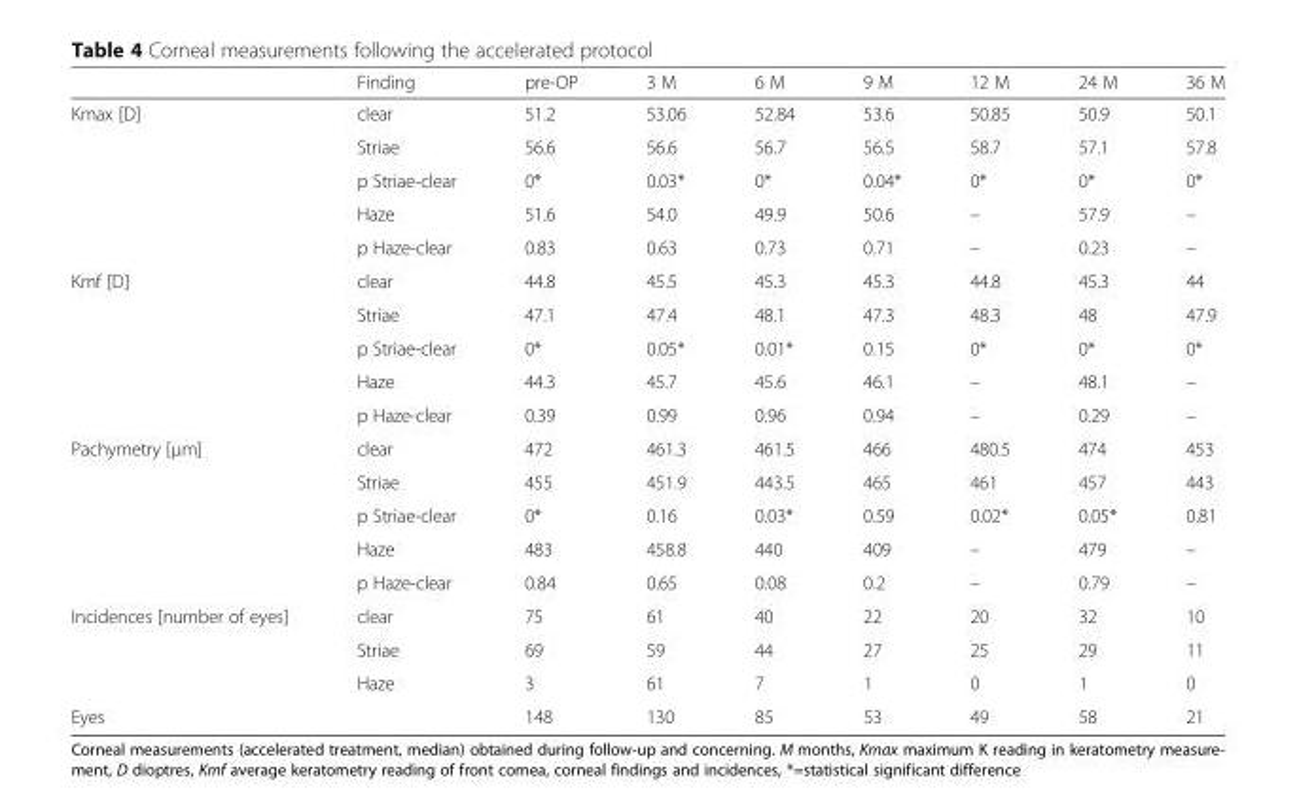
<table><thead><tr><td></td><td>Finding</td><td>pre-OP</td><td>3 M</td><td>6 M</td><td>9 M</td><td>12 M</td><td>24 M</td><td>36 M</td></tr></thead><tbody><tr><td rowspan="5">Kmax [D]</td><td>clear</td><td>51.2</td><td>53.06</td><td>52.84</td><td>53.6</td><td>50.85</td><td>50.9</td><td>50.1</td></tr><tr><td>Striae</td><td>56.6</td><td>56.6</td><td>56.7</td><td>56.5</td><td>58.7</td><td>57.1</td><td>57.8</td></tr><tr><td>p Striae-clear</td><td>0*</td><td>0.03*</td><td>0*</td><td>0.04*</td><td>0*</td><td>0*</td><td>0*</td></tr><tr><td>Haze</td><td>51.6</td><td>54.0</td><td>49.9</td><td>50.6</td><td>–</td><td>57.9</td><td>–</td></tr><tr><td>p Haze-clear</td><td>0.83</td><td>0.63</td><td>0.73</td><td>0.71</td><td>–</td><td>0.23</td><td>–</td></tr><tr><td rowspan="5">Kmf [D]</td><td>clear</td><td>44.8</td><td>45.5</td><td>45.3</td><td>45.3</td><td>44.8</td><td>45.3</td><td>44</td></tr><tr><td>Striae</td><td>47.1</td><td>47.4</td><td>48.1</td><td>47.3</td><td>48.3</td><td>48</td><td>47.9</td></tr><tr><td>p Striae-clear</td><td>0*</td><td>0.05*</td><td>0.01*</td><td>0.15</td><td>0*</td><td>0*</td><td>0*</td></tr><tr><td>Haze</td><td>44.3</td><td>45.7</td><td>45.6</td><td>46.1</td><td>–</td><td>48.1</td><td>–</td></tr><tr><td>p Haze-clear</td><td>0.39</td><td>0.99</td><td>0.96</td><td>0.94</td><td>–</td><td>0.29</td><td>–</td></tr><tr><td rowspan="5">Pachymetry [μm]</td><td>clear</td><td>472</td><td>461.3</td><td>461.5</td><td>466</td><td>480.5</td><td>474</td><td>453</td></tr><tr><td>Striae</td><td>455</td><td>451.9</td><td>443.5</td><td>465</td><td>461</td><td>457</td><td>443</td></tr><tr><td>p Striae-clear</td><td>0*</td><td>0.16</td><td>0.03*</td><td>0.59</td><td>0.02*</td><td>0.05*</td><td>0.81</td></tr><tr><td>Haze</td><td>483</td><td>458.8</td><td>440</td><td>409</td><td>–</td><td>479</td><td>–</td></tr><tr><td>p Haze-clear</td><td>0.84</td><td>0.65</td><td>0.08</td><td>0.2</td><td>–</td><td>0.79</td><td>–</td></tr><tr><td rowspan="3">Incidences [number of eyes]</td><td>clear</td><td>75</td><td>61</td><td>40</td><td>22</td><td>20</td><td>32</td><td>10</td></tr><tr><td>Striae</td><td>69</td><td>59</td><td>44</td><td>27</td><td>25</td><td>29</td><td>11</td></tr><tr><td>Haze</td><td>3</td><td>61</td><td>7</td><td>1</td><td>0</td><td>1</td><td>0</td></tr><tr><td>Eyes</td><td></td><td>148</td><td>130</td><td>85</td><td>53</td><td>49</td><td>58</td><td>21</td></tr></tbody></table>